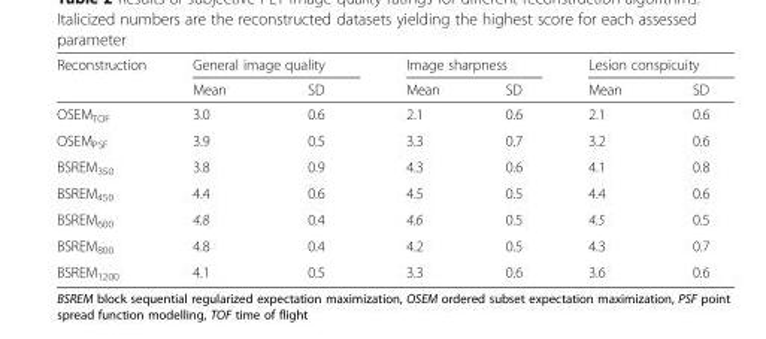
<table><thead><tr><td rowspan="2">Reconstruction</td><td colspan="2">General image quality</td><td colspan="2">Image sharpness</td><td colspan="2">Lesion conspicuity</td></tr><tr><td>Mean</td><td>SD</td><td>Mean</td><td>SD</td><td>Mean</td><td>SD</td></tr></thead><tbody><tr><td>OSEM<sub>TOF</sub></td><td>3.0</td><td>0.6</td><td>2.1</td><td>0.6</td><td>2.1</td><td>0.6</td></tr><tr><td>OSEM<sub>PSF</sub></td><td>3.9</td><td>0.5</td><td>3.3</td><td>0.7</td><td>3.2</td><td>0.6</td></tr><tr><td>BSREM<sub>350</sub></td><td>3.8</td><td>0.9</td><td>4.3</td><td>0.6</td><td>4.1</td><td>0.8</td></tr><tr><td>BSREM<sub>450</sub></td><td>4.4</td><td>0.6</td><td>4.5</td><td>0.5</td><td>4.4</td><td>0.6</td></tr><tr><td>BSREM<sub>600</sub></td><td>4.8</td><td>0.4</td><td>4.6</td><td>0.5</td><td>4.5</td><td>0.5</td></tr><tr><td>BSREM<sub>800</sub></td><td>4.8</td><td>0.4</td><td>4.2</td><td>0.5</td><td>4.3</td><td>0.7</td></tr><tr><td>BSREM<sub>1200</sub></td><td>4.1</td><td>0.5</td><td>3.3</td><td>0.6</td><td>3.6</td><td>0.6</td></tr></tbody></table>